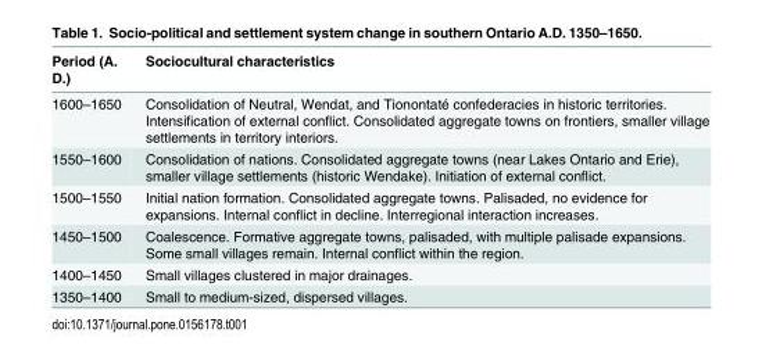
<table><thead><tr><td>Period (A. D.)</td><td>Sociocultural characteristics</td></tr></thead><tbody><tr><td>1600–1650</td><td>Consolidation of Neutral, Wendat, and Tionontaté confederacies in historic territories. Intensification of external conflict. Consolidated aggregate towns on frontiers, smaller village settlements in territory interiors.</td></tr><tr><td>1550–1600</td><td>Consolidation of nations. Consolidated aggregate towns (near Lakes Ontario and Erie), smaller village settlements (historic Wendake). Initiation of external conflict.</td></tr><tr><td>1500–1550</td><td>Initial nation formation. Consolidated aggregate towns. Palisaded, no evidence for expansions. Internal conflict in decline. Interregional interaction increases.</td></tr><tr><td>1450–1500</td><td>Coalescence. Formative aggregate towns, palisaded, with multiple palisade expansions. Some small villages remain. Internal conflict within the region.</td></tr><tr><td>1400–1450</td><td>Small villages clustered in major drainages.</td></tr><tr><td>1350–1400</td><td>Small to medium-sized, dispersed villages.</td></tr></tbody></table>